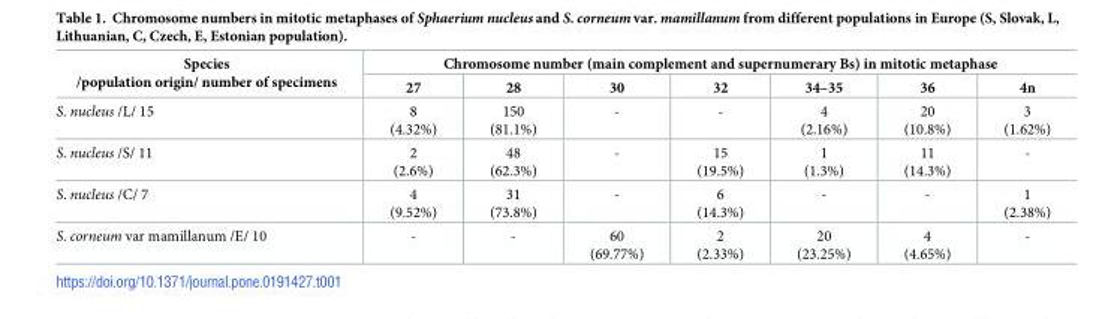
<table><thead><tr><td rowspan="2">Species /population origin/ number of specimens</td><td colspan="7">Chromosome number (main complement and supernumerary Bs) in mitotic metaphase</td></tr><tr><td>27</td><td>28</td><td>30</td><td>32</td><td>34–35</td><td>36</td><td>4n</td></tr></thead><tbody><tr><td>S. nucleus /L/ 15</td><td>8 (4.32%)</td><td>150 (81.1%)</td><td>-</td><td>-</td><td>4 (2.16%)</td><td>20 (10.8%)</td><td>3 (1.62%)</td></tr><tr><td>S. nucleus /S/ 11</td><td>2 (2.6%)</td><td>48 (62.3%)</td><td>-</td><td>15 (19.5%)</td><td>1 (1.3%)</td><td>11 (14.3%)</td><td>-</td></tr><tr><td>S. nucleus /C/ 7</td><td>4 (9.52%)</td><td>31 (73.8%)</td><td>-</td><td>6 (14.3%)</td><td>-</td><td>-</td><td>1 (2.38%)</td></tr><tr><td>S. corneum var mamillanum /E/ 10</td><td>-</td><td>-</td><td>60 (69.77%)</td><td>2 (2.33%)</td><td>20 (23.25%)</td><td>4 (4.65%)</td><td>-</td></tr></tbody></table>